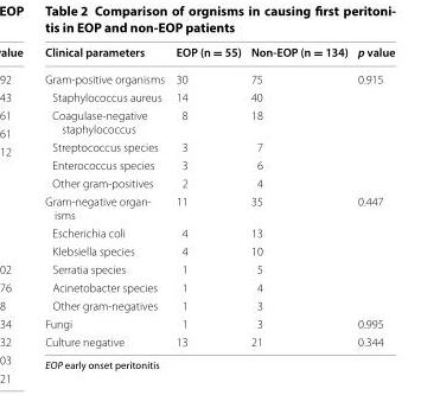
<table><thead><tr><td>Clinical parameters</td><td>EOP (n = 55)</td><td>Non‑EOP (n = 134)</td><td>p value</td></tr></thead><tbody><tr><td>Gram-positive organisms</td><td>30</td><td>75</td><td>0.915</td></tr><tr><td>Staphylococcus aureus</td><td>14</td><td>40</td><td></td></tr><tr><td>Coagulase-negative staphylococcus</td><td>8</td><td>18</td><td></td></tr><tr><td>Streptococcus species</td><td>3</td><td>7</td><td></td></tr><tr><td>Enterococcus species</td><td>3</td><td>6</td><td></td></tr><tr><td>Other gram-positives</td><td>2</td><td>4</td><td></td></tr><tr><td>Gram-negative organ- isms</td><td>11</td><td>35</td><td>0.447</td></tr><tr><td>Escherichia coli</td><td>4</td><td>13</td><td></td></tr><tr><td>Klebsiella species</td><td>4</td><td>10</td><td></td></tr><tr><td>Serratia species</td><td>1</td><td>5</td><td></td></tr><tr><td>Acinetobacter species</td><td>1</td><td>4</td><td></td></tr><tr><td>Other gram-negatives</td><td>1</td><td>3</td><td></td></tr><tr><td>Fungi</td><td>1</td><td>3</td><td>0.995</td></tr><tr><td>Culture negative</td><td>13</td><td>21</td><td>0.344</td></tr></tbody></table>